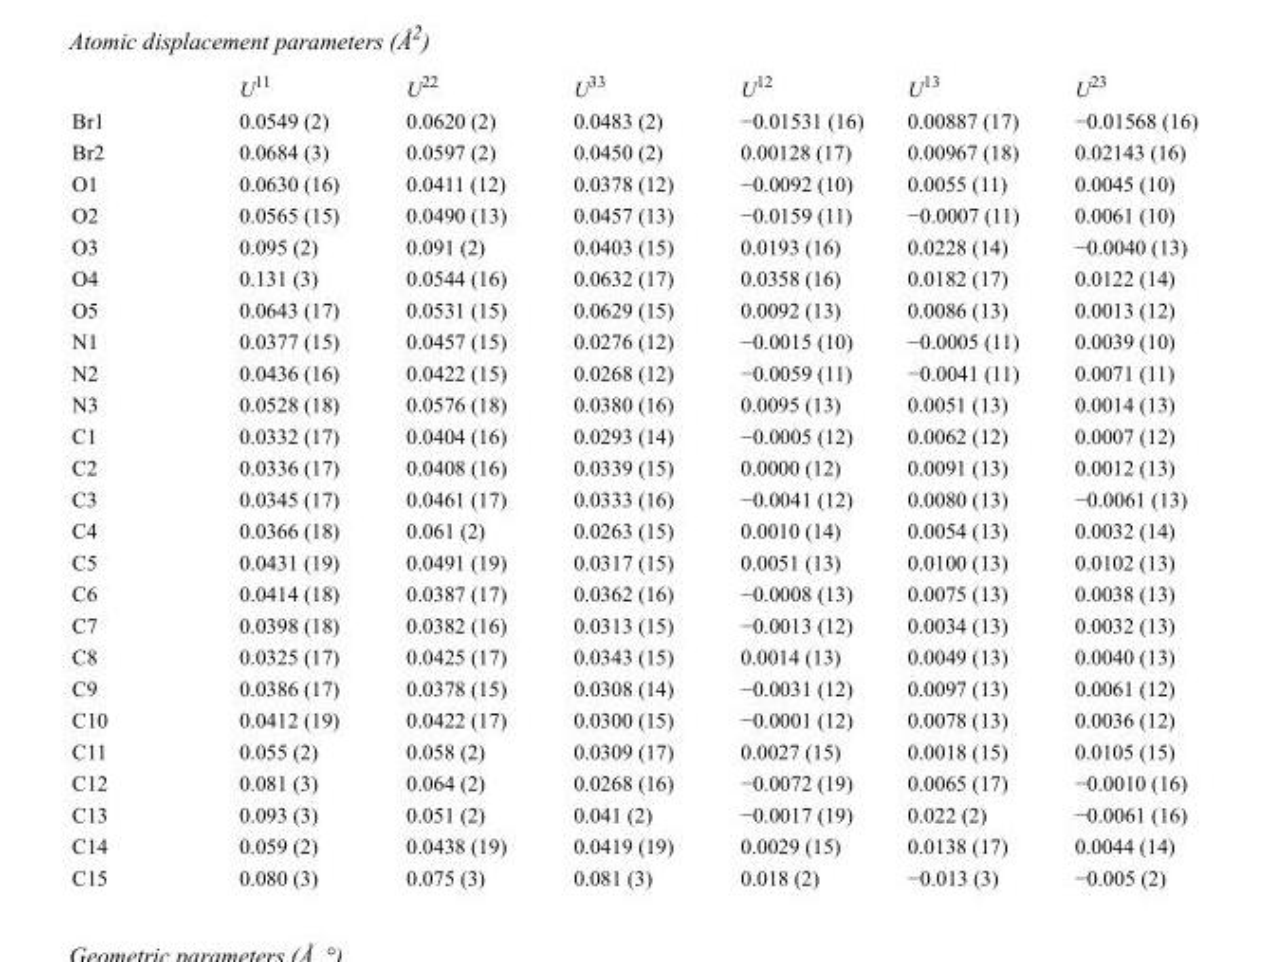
<table><thead><tr><td></td><td>U<sup>11</sup></td><td>U<sup>22</sup></td><td>U<sup>33</sup></td><td>U<sup>12</sup></td><td>U<sup>13</sup></td><td>U<sup>23</sup></td></tr></thead><tbody><tr><td>Br1</td><td>0.0549 (2)</td><td>0.0620 (2)</td><td>0.0483 (2)</td><td>−0.01531 (16)</td><td>0.00887 (17)</td><td>−0.01568 (16)</td></tr><tr><td>Br2</td><td>0.0684 (3)</td><td>0.0597 (2)</td><td>0.0450 (2)</td><td>0.00128 (17)</td><td>0.00967 (18)</td><td>0.02143 (16)</td></tr><tr><td>O1</td><td>0.0630 (16)</td><td>0.0411 (12)</td><td>0.0378 (12)</td><td>−0.0092 (10)</td><td>0.0055 (11)</td><td>0.0045 (10)</td></tr><tr><td>O2</td><td>0.0565 (15)</td><td>0.0490 (13)</td><td>0.0457 (13)</td><td>−0.0159 (11)</td><td>−0.0007 (11)</td><td>0.0061 (10)</td></tr><tr><td>O3</td><td>0.095 (2)</td><td>0.091 (2)</td><td>0.0403 (15)</td><td>0.0193 (16)</td><td>0.0228 (14)</td><td>−0.0040 (13)</td></tr><tr><td>O4</td><td>0.131 (3)</td><td>0.0544 (16)</td><td>0.0632 (17)</td><td>0.0358 (16)</td><td>0.0182 (17)</td><td>0.0122 (14)</td></tr><tr><td>O5</td><td>0.0643 (17)</td><td>0.0531 (15)</td><td>0.0629 (15)</td><td>0.0092 (13)</td><td>0.0086 (13)</td><td>0.0013 (12)</td></tr><tr><td>N1</td><td>0.0377 (15)</td><td>0.0457 (15)</td><td>0.0276 (12)</td><td>−0.0015 (10)</td><td>−0.0005 (11)</td><td>0.0039 (10)</td></tr><tr><td>N2</td><td>0.0436 (16)</td><td>0.0422 (15)</td><td>0.0268 (12)</td><td>−0.0059 (11)</td><td>−0.0041 (11)</td><td>0.0071 (11)</td></tr><tr><td>N3</td><td>0.0528 (18)</td><td>0.0576 (18)</td><td>0.0380 (16)</td><td>0.0095 (13)</td><td>0.0051 (13)</td><td>0.0014 (13)</td></tr><tr><td>C1</td><td>0.0332 (17)</td><td>0.0404 (16)</td><td>0.0293 (14)</td><td>−0.0005 (12)</td><td>0.0062 (12)</td><td>0.0007 (12)</td></tr><tr><td>C2</td><td>0.0336 (17)</td><td>0.0408 (16)</td><td>0.0339 (15)</td><td>0.0000 (12)</td><td>0.0091 (13)</td><td>0.0012 (13)</td></tr><tr><td>C3</td><td>0.0345 (17)</td><td>0.0461 (17)</td><td>0.0333 (16)</td><td>−0.0041 (12)</td><td>0.0080 (13)</td><td>−0.0061 (13)</td></tr><tr><td>C4</td><td>0.0366 (18)</td><td>0.061 (2)</td><td>0.0263 (15)</td><td>0.0010 (14)</td><td>0.0054 (13)</td><td>0.0032 (14)</td></tr><tr><td>C5</td><td>0.0431 (19)</td><td>0.0491 (19)</td><td>0.0317 (15)</td><td>0.0051 (13)</td><td>0.0100 (13)</td><td>0.0102 (13)</td></tr><tr><td>C6</td><td>0.0414 (18)</td><td>0.0387 (17)</td><td>0.0362 (16)</td><td>−0.0008 (13)</td><td>0.0075 (13)</td><td>0.0038 (13)</td></tr><tr><td>C7</td><td>0.0398 (18)</td><td>0.0382 (16)</td><td>0.0313 (15)</td><td>−0.0013 (12)</td><td>0.0034 (13)</td><td>0.0032 (13)</td></tr><tr><td>C8</td><td>0.0325 (17)</td><td>0.0425 (17)</td><td>0.0343 (15)</td><td>0.0014 (13)</td><td>0.0049 (13)</td><td>0.0040 (13)</td></tr><tr><td>C9</td><td>0.0386 (17)</td><td>0.0378 (15)</td><td>0.0308 (14)</td><td>−0.0031 (12)</td><td>0.0097 (13)</td><td>0.0061 (12)</td></tr><tr><td>C10</td><td>0.0412 (19)</td><td>0.0422 (17)</td><td>0.0300 (15)</td><td>−0.0001 (12)</td><td>0.0078 (13)</td><td>0.0036 (12)</td></tr><tr><td>C11</td><td>0.055 (2)</td><td>0.058 (2)</td><td>0.0309 (17)</td><td>0.0027 (15)</td><td>0.0018 (15)</td><td>0.0105 (15)</td></tr><tr><td>C12</td><td>0.081 (3)</td><td>0.064 (2)</td><td>0.0268 (16)</td><td>−0.0072 (19)</td><td>0.0065 (17)</td><td>−0.0010 (16)</td></tr><tr><td>C13</td><td>0.093 (3)</td><td>0.051 (2)</td><td>0.041 (2)</td><td>−0.0017 (19)</td><td>0.022 (2)</td><td>−0.0061 (16)</td></tr><tr><td>C14</td><td>0.059 (2)</td><td>0.0438 (19)</td><td>0.0419 (19)</td><td>0.0029 (15)</td><td>0.0138 (17)</td><td>0.0044 (14)</td></tr><tr><td>C15</td><td>0.080 (3)</td><td>0.075 (3)</td><td>0.081 (3)</td><td>0.018 (2)</td><td>−0.013 (3)</td><td>−0.005 (2)</td></tr></tbody></table>